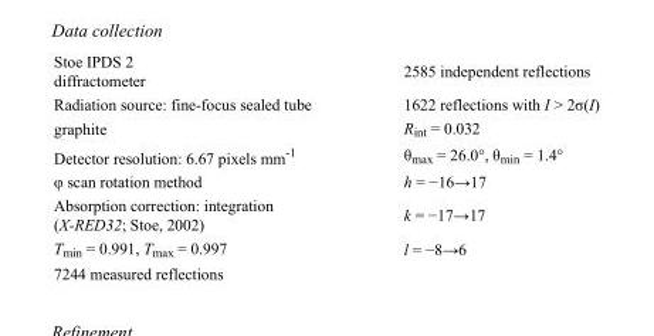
<table><tbody><tr><td>Stoe IPDS 2 diffractometer</td><td>2585 independent reflections</td></tr><tr><td>Radiation source: fine-focus sealed tube</td><td>1622 reflections with I &gt; 2σ(I)</td></tr><tr><td>graphite</td><td>R<sub>int</sub> = 0.032</td></tr><tr><td>Detector resolution: 6.67 pixels mm<sup>-1</sup></td><td>θ<sub>max</sub> = 26.0°, θ<sub>min</sub> = 1.4°</td></tr><tr><td>φ scan rotation method</td><td>h = −16→17</td></tr><tr><td>Absorption correction: integration (X-RED32; Stoe, 2002)</td><td>k = −17→17</td></tr><tr><td>T<sub>min</sub> = 0.991, T<sub>max</sub> = 0.997</td><td>l = −8→6</td></tr><tr><td>7244 measured reflections</td><td></td></tr></tbody></table>